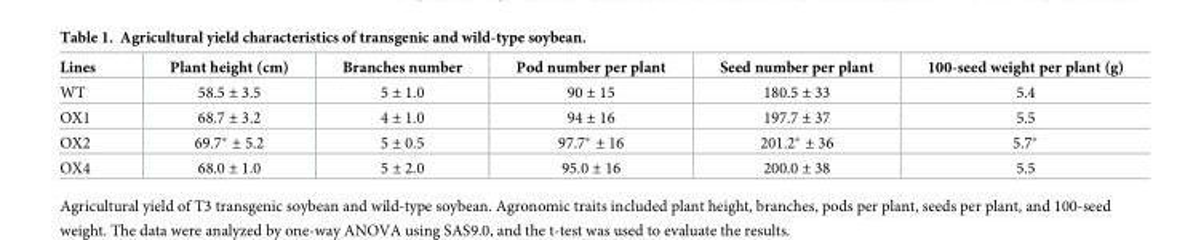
<table><thead><tr><td>Lines</td><td>Plant height (cm)</td><td>Branches number</td><td>Pod number per plant</td><td>Seed number per plant</td><td>100-seed weight per plant (g)</td></tr></thead><tbody><tr><td>WT</td><td>58.5 ± 3.5</td><td>5 ± 1.0</td><td>90 ± 15</td><td>180.5 ± 33</td><td>5.4</td></tr><tr><td>OX1</td><td>68.7 ± 3.2</td><td>4 ± 1.0</td><td>94 ± 16</td><td>197.7 ± 37</td><td>5.5</td></tr><tr><td>OX2</td><td>69.7* ± 5.2</td><td>5 ± 0.5</td><td>97.7* ± 16</td><td>201.2* ± 36</td><td>5.7*</td></tr><tr><td>OX4</td><td>68.0 ± 1.0</td><td>5 ± 2.0</td><td>95.0 ± 16</td><td>200.0 ± 38</td><td>5.5</td></tr></tbody></table>